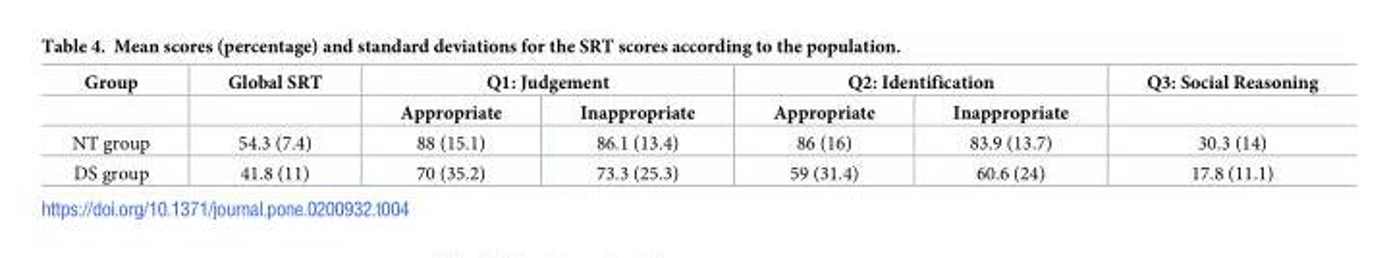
<table><thead><tr><td rowspan="2">Group</td><td rowspan="2">Global SRT</td><td colspan="2">Q1: Judgement</td><td colspan="2">Q2: Identification</td><td rowspan="2">Q3: Social Reasoning</td></tr><tr><td>Appropriate</td><td>Inappropriate</td><td>Appropriate</td><td>Inappropriate</td></tr></thead><tbody><tr><td>NT group</td><td>54.3 (7.4)</td><td>88 (15.1)</td><td>86.1 (13.4)</td><td>86 (16)</td><td>83.9 (13.7)</td><td>30.3 (14)</td></tr><tr><td>DS group</td><td>41.8 (11)</td><td>70 (35.2)</td><td>73.3 (25.3)</td><td>59 (31.4)</td><td>60.6 (24)</td><td>17.8 (11.1)</td></tr></tbody></table>